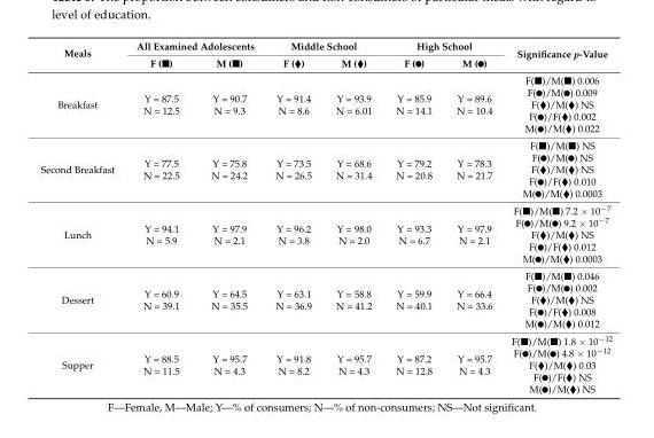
<table><thead><tr><td rowspan="2">Meals</td><td colspan="2">All Examined Adolescents</td><td colspan="2">Middle School</td><td colspan="2">High School</td><td rowspan="2">Significance p-Value</td></tr><tr><td>F (■)</td><td>M (■)</td><td>F (♦)</td><td>M (♦)</td><td>F ( )</td><td>M ( )</td></tr></thead><tbody><tr><td>Breakfast</td><td>Y = 87.5 N = 12.5</td><td>Y = 90.7 N = 9.3</td><td>Y = 91.4 N = 8.6</td><td>Y = 93.9 N = 6.01</td><td>Y = 85.9 N = 14.1</td><td>Y = 89.6 N = 10.4</td><td>F(■)/M(■) 0.006 F( )/M( ) 0.009 F(♦)/M(♦) NS F( )/F(♦) 0.002 M( )/M(♦) 0.022</td></tr><tr><td>Second Breakfast</td><td>Y = 77.5 N = 22.5</td><td>Y = 75.8 N = 24.2</td><td>Y = 73.5 N = 26.5</td><td>Y = 68.6 N = 31.4</td><td>Y = 79.2 N = 20.8</td><td>Y = 78.3 N = 21.7</td><td>F(■)/M(■) NS F( )/M( ) NS F(♦)/M(♦) NS F( )/F(♦) 0.010 M( )/M(♦) 0.0003</td></tr><tr><td>Lunch</td><td>Y = 94.1 N = 5.9</td><td>Y = 97.9 N = 2.1</td><td>Y = 96.2 N = 3.8</td><td>Y = 98.0 N = 2.0</td><td>Y = 93.3 N = 6.7</td><td>Y = 97.9 N = 2.1</td><td>F(■)/M(■) 7.2 ˆ 10´7 F( )/M( ) 9.2 ˆ 10´7 F(♦)/M(♦) NS F( )/F(♦) 0.012 M( )/M(♦) 0.0003</td></tr><tr><td>Dessert</td><td>Y = 60.9 N = 39.1</td><td>Y = 64.5 N = 35.5</td><td>Y = 63.1 N = 36.9</td><td>Y = 58.8 N = 41.2</td><td>Y = 59.9 N = 40.1</td><td>Y = 66.4 N = 33.6</td><td>F(■)/M(■) 0.046 F( )/M( ) 0.002 F(♦)/M(♦) NS F( )/F(♦) 0.008 M( )/M(♦) 0.012</td></tr><tr><td>Supper</td><td>Y = 88.5 N = 11.5</td><td>Y = 95.7 N = 4.3</td><td>Y = 91.8 N = 8.2</td><td>Y = 95.7 N = 4.3</td><td>Y = 87.2 N = 12.8</td><td>Y = 95.7 N = 4.3</td><td>F(■)/M(■) 1.8 ˆ 10´12 F( )/M( ) 4.8 ˆ 10´12 F(♦)/M(♦) 0.03 F( )/F(♦) NS M( )/M(♦) NS</td></tr></tbody></table>